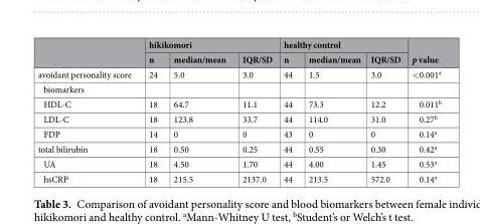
<table><thead><tr><td rowspan="2"></td><td colspan="3">hikikomori</td><td colspan="3">healthy control</td><td rowspan="2">p value</td></tr><tr><td>n</td><td>median/mean</td><td>IQR/SD</td><td>n</td><td>median/mean</td><td>IQR/SD</td></tr></thead><tbody><tr><td>avoidant personality score</td><td>24</td><td>5.0</td><td>3.0</td><td>44</td><td>1.5</td><td>3.0</td><td>&lt;0.001<sup>a</sup></td></tr><tr><td colspan="8">biomarkers</td></tr><tr><td>HDL-C</td><td>18</td><td>64.7</td><td>11.1</td><td>44</td><td>73.3</td><td>12.2</td><td>0.011<sup>b</sup></td></tr><tr><td>LDL-C</td><td>18</td><td>123.8</td><td>33.7</td><td>44</td><td>114.0</td><td>31.0</td><td>0.27<sup>b</sup></td></tr><tr><td>FDP</td><td>14</td><td>0</td><td>0</td><td>43</td><td>0</td><td>0</td><td>0.14<sup>a</sup></td></tr><tr><td>total bilirubin</td><td>18</td><td>0.50</td><td>0.25</td><td>44</td><td>0.55</td><td>0.30</td><td>0.42<sup>a</sup></td></tr><tr><td>UA</td><td>18</td><td>4.50</td><td>1.70</td><td>44</td><td>4.00</td><td>1.45</td><td>0.53<sup>a</sup></td></tr><tr><td>hsCRP</td><td>18</td><td>215.5</td><td>2137.0</td><td>44</td><td>213.5</td><td>572.0</td><td>0.14<sup>a</sup></td></tr></tbody></table>